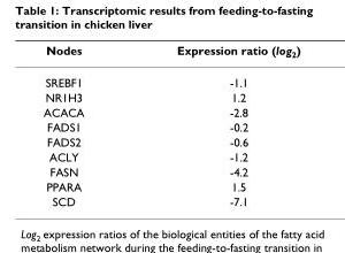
<table><thead><tr><td>Nodes</td><td>Expression ratio (log<sub>2</sub>)</td></tr></thead><tbody><tr><td>SREBF1</td><td>-1.1</td></tr><tr><td>NR1H3</td><td>1.2</td></tr><tr><td>ACACA</td><td>-2.8</td></tr><tr><td>FADS1</td><td>-0.2</td></tr><tr><td>FADS2</td><td>-0.6</td></tr><tr><td>ACLY</td><td>-1.2</td></tr><tr><td>FASN</td><td>-4.2</td></tr><tr><td>PPARA</td><td>1.5</td></tr><tr><td>SCD</td><td>-7.1</td></tr></tbody></table>